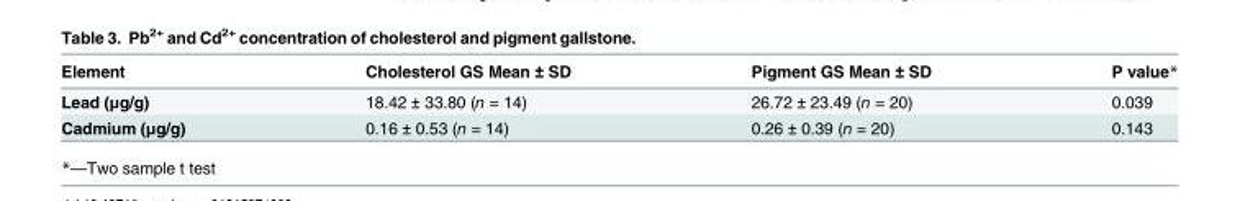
<table><thead><tr><td>Element</td><td>Cholesterol GS Mean ± SD</td><td>Pigment GS Mean ± SD</td><td>P value*</td></tr></thead><tbody><tr><td>Lead (μg/g)</td><td>18.42 ± 33.80 (n = 14)</td><td>26.72 ± 23.49 (n = 20)</td><td>0.039</td></tr><tr><td>Cadmium (μg/g)</td><td>0.16 ± 0.53 (n = 14)</td><td>0.26 ± 0.39 (n = 20)</td><td>0.143</td></tr></tbody></table>